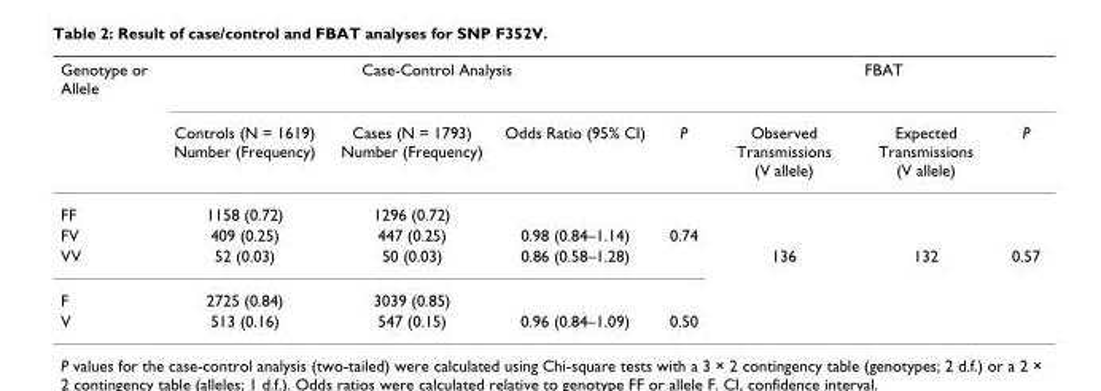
<table><thead><tr><td rowspan="2">Genotype or Allele</td><td colspan="4">Case-Control Analysis</td><td colspan="3">FBAT</td></tr><tr><td>Controls (N = 1619) Number (Frequency)</td><td>Cases (N = 1793) Number (Frequency)</td><td>Odds Ratio (95% CI)</td><td>P</td><td>Observed Transmissions (V allele)</td><td>Expected Transmissions (V allele)</td><td>P</td></tr></thead><tbody><tr><td>FF</td><td>1158 (0.72)</td><td>1296 (0.72)</td><td></td><td></td><td></td><td></td><td></td></tr><tr><td>FV</td><td>409 (0.25)</td><td>447 (0.25)</td><td>0.98 (0.84–1.14)</td><td>0.74</td><td></td><td></td><td></td></tr><tr><td>VV</td><td>52 (0.03)</td><td>50 (0.03)</td><td>0.86 (0.58–1.28)</td><td></td><td>136</td><td>132</td><td>0.57</td></tr><tr><td>F</td><td>2725 (0.84)</td><td>3039 (0.85)</td><td></td><td></td><td></td><td></td><td></td></tr><tr><td>V</td><td>513 (0.16)</td><td>547 (0.15)</td><td>0.96 (0.84–1.09)</td><td>0.50</td><td></td><td></td><td></td></tr></tbody></table>